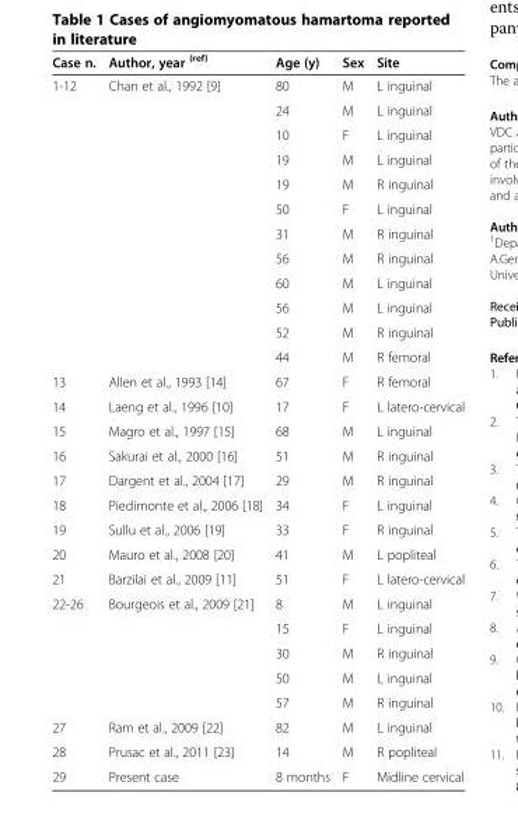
<table><thead><tr><td>Case n.</td><td>Author, year <sup>(ref)</sup></td><td>Age (y)</td><td>Sex</td><td>Site</td></tr></thead><tbody><tr><td rowspan="12">1-12</td><td>Chan et al., 1992 [9]</td><td>80</td><td>M</td><td>L inguinal</td></tr><tr><td></td><td>24</td><td>M</td><td>L inguinal</td></tr><tr><td></td><td>10</td><td>F</td><td>L inguinal</td></tr><tr><td></td><td>19</td><td>M</td><td>L inguinal</td></tr><tr><td></td><td>19</td><td>M</td><td>R inguinal</td></tr><tr><td></td><td>50</td><td>F</td><td>L inguinal</td></tr><tr><td></td><td>31</td><td>M</td><td>R inguinal</td></tr><tr><td></td><td>56</td><td>M</td><td>R inguinal</td></tr><tr><td></td><td>60</td><td>M</td><td>L inguinal</td></tr><tr><td></td><td>56</td><td>M</td><td>L inguinal</td></tr><tr><td></td><td>52</td><td>M</td><td>R inguinal</td></tr><tr><td></td><td>44</td><td>M</td><td>R femoral</td></tr><tr><td>13</td><td>Allen et al., 1993 [14]</td><td>67</td><td>F</td><td>R femoral</td></tr><tr><td>14</td><td>Laeng et al., 1996 [10]</td><td>17</td><td>F</td><td>L latero-cervical</td></tr><tr><td>15</td><td>Magro et al., 1997 [15]</td><td>68</td><td>M</td><td>L inguinal</td></tr><tr><td>16</td><td>Sakurai et al., 2000 [16]</td><td>51</td><td>M</td><td>R inguinal</td></tr><tr><td>17</td><td>Dargent et al., 2004 [17]</td><td>29</td><td>M</td><td>R inguinal</td></tr><tr><td>18</td><td>Piedimonte et al., 2006 [18]</td><td>34</td><td>F</td><td>L inguinal</td></tr><tr><td>19</td><td>Sullu et al., 2006 [19]</td><td>33</td><td>F</td><td>R inguinal</td></tr><tr><td>20</td><td>Mauro et al., 2008 [20]</td><td>41</td><td>M</td><td>L popliteal</td></tr><tr><td>21</td><td>Barzilai et al., 2009 [11]</td><td>51</td><td>F</td><td>L latero-cervical</td></tr><tr><td rowspan="5">22-26</td><td rowspan="5">Bourgeois et al., 2009 [21]</td><td>8</td><td>M</td><td>L inguinal</td></tr><tr><td>15</td><td>F</td><td>L inguinal</td></tr><tr><td>30</td><td>M</td><td>R inguinal</td></tr><tr><td>50</td><td>M</td><td>L inguinal</td></tr><tr><td>57</td><td>M</td><td>R inguinal</td></tr><tr><td>27</td><td>Ram et al., 2009 [22]</td><td>82</td><td>M</td><td>L inguinal</td></tr><tr><td>28</td><td>Prusac et al., 2011 [23]</td><td>14</td><td>M</td><td>R popliteal</td></tr><tr><td>29</td><td>Present case</td><td>8 months</td><td>F</td><td>Midline cervical</td></tr></tbody></table>